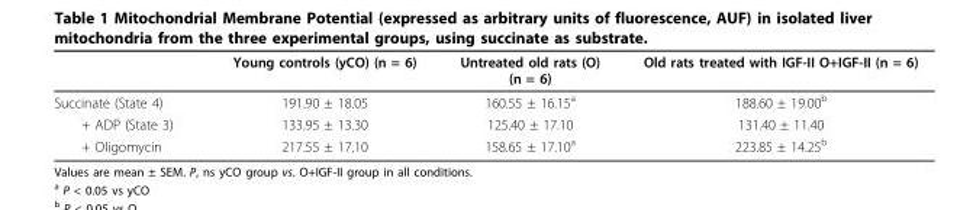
<table><thead><tr><td></td><td>Young controls (yCO) (n = 6)</td><td>Untreated old rats (O) (n = 6)</td><td>Old rats treated with IGF-II O+IGF-II (n = 6)</td></tr></thead><tbody><tr><td>Succinate (State 4)</td><td>191.90 ± 18.05</td><td>160.55 ± 16.15<sup>a</sup></td><td>188.60 ± 19.00<sup>b</sup></td></tr><tr><td>+ ADP (State 3)</td><td>133.95 ± 13.30</td><td>125.40 ± 17.10</td><td>131.40 ± 11.40</td></tr><tr><td>+ Oligomycin</td><td>217.55 ± 17.10</td><td>158.65 ± 17.10<sup>a</sup></td><td>223.85 ± 14.25<sup>b</sup></td></tr></tbody></table>